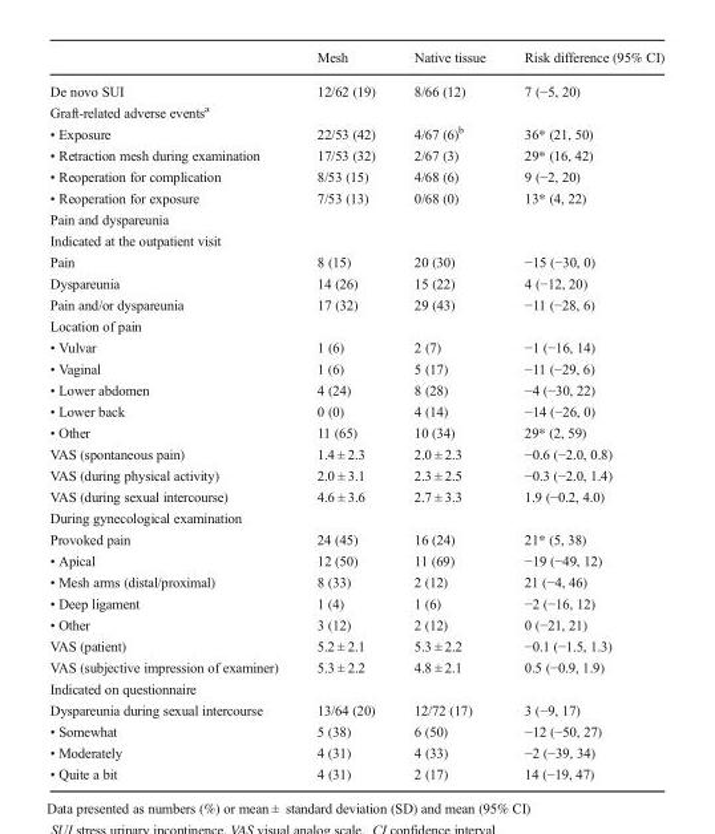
<table><thead><tr><td></td><td>Mesh</td><td>Native tissue</td><td>Risk difference (95% CI)</td></tr></thead><tbody><tr><td>De novo SUI</td><td>12/62 (19)</td><td>8/66 (12)</td><td>7 (−5, 20)</td></tr><tr><td colspan="4">Graft-related adverse events<sup>a</sup></td></tr><tr><td>• Exposure</td><td>22/53 (42)</td><td>4/67 (6)<sup>b</sup></td><td>36* (21, 50)</td></tr><tr><td>• Retraction mesh during examination</td><td>17/53 (32)</td><td>2/67 (3)</td><td>29* (16, 42)</td></tr><tr><td>• Reoperation for complication</td><td>8/53 (15)</td><td>4/68 (6)</td><td>9 (−2, 20)</td></tr><tr><td>• Reoperation for exposure</td><td>7/53 (13)</td><td>0/68 (0)</td><td>13* (4, 22)</td></tr><tr><td colspan="4">Pain and dyspareunia</td></tr><tr><td colspan="4">Indicated at the outpatient visit</td></tr><tr><td>Pain</td><td>8 (15)</td><td>20 (30)</td><td>−15 (−30, 0)</td></tr><tr><td>Dyspareunia</td><td>14 (26)</td><td>15 (22)</td><td>4 (−12, 20)</td></tr><tr><td>Pain and/or dyspareunia</td><td>17 (32)</td><td>29 (43)</td><td>−11 (−28, 6)</td></tr><tr><td colspan="4">Location of pain</td></tr><tr><td>• Vulvar</td><td>1 (6)</td><td>2 (7)</td><td>−1 (−16, 14)</td></tr><tr><td>• Vaginal</td><td>1 (6)</td><td>5 (17)</td><td>−11 (−29, 6)</td></tr><tr><td>• Lower abdomen</td><td>4 (24)</td><td>8 (28)</td><td>−4 (−30, 22)</td></tr><tr><td>• Lower back</td><td>0 (0)</td><td>4 (14)</td><td>−14 (−26, 0)</td></tr><tr><td>• Other</td><td>11 (65)</td><td>10 (34)</td><td>29* (2, 59)</td></tr><tr><td>VAS (spontaneous pain)</td><td>1.4 ± 2.3</td><td>2.0 ± 2.3</td><td>−0.6 (−2.0, 0.8)</td></tr><tr><td>VAS (during physical activity)</td><td>2.0 ± 3.1</td><td>2.3 ± 2.5</td><td>−0.3 (−2.0, 1.4)</td></tr><tr><td>VAS (during sexual intercourse)</td><td>4.6 ± 3.6</td><td>2.7 ± 3.3</td><td>1.9 (−0.2, 4.0)</td></tr><tr><td colspan="4">During gynecological examination</td></tr><tr><td>Provoked pain</td><td>24 (45)</td><td>16 (24)</td><td>21* (5, 38)</td></tr><tr><td>• Apical</td><td>12 (50)</td><td>11 (69)</td><td>−19 (−49, 12)</td></tr><tr><td>• Mesh arms (distal/proximal)</td><td>8 (33)</td><td>2 (12)</td><td>21 (−4, 46)</td></tr><tr><td>• Deep ligament</td><td>1 (4)</td><td>1 (6)</td><td>−2 (−16, 12)</td></tr><tr><td>• Other</td><td>3 (12)</td><td>2 (12)</td><td>0 (−21, 21)</td></tr><tr><td>VAS (patient)</td><td>5.2 ± 2.1</td><td>5.3 ± 2.2</td><td>−0.1 (−1.5, 1.3)</td></tr><tr><td>VAS (subjective impression of examiner)</td><td>5.3 ± 2.2</td><td>4.8 ± 2.1</td><td>0.5 (−0.9, 1.9)</td></tr><tr><td colspan="4">Indicated on questionnaire</td></tr><tr><td>Dyspareunia during sexual intercourse</td><td>13/64 (20)</td><td>12/72 (17)</td><td>3 (−9, 17)</td></tr><tr><td>• Somewhat</td><td>5 (38)</td><td>6 (50)</td><td>−12 (−50, 27)</td></tr><tr><td>• Moderately</td><td>4 (31)</td><td>4 (33)</td><td>−2 (−39, 34)</td></tr><tr><td>• Quite a bit</td><td>4 (31)</td><td>2 (17)</td><td>14 (−19, 47)</td></tr></tbody></table>